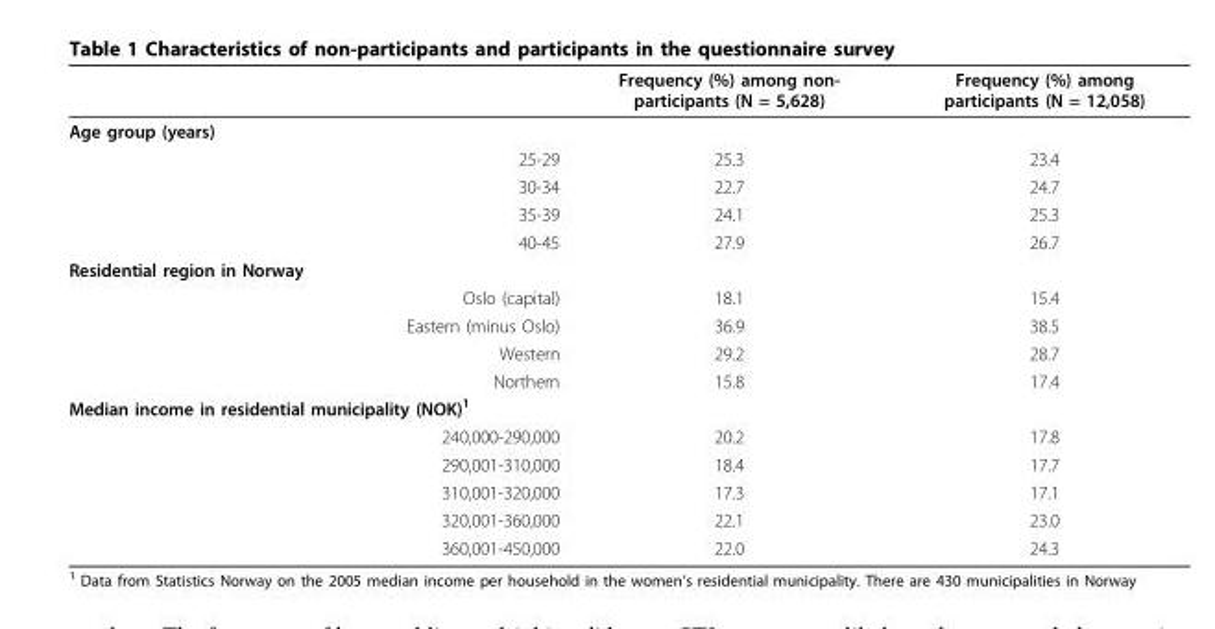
<table><thead><tr><td></td><td>Frequency (%) among non- participants (N = 5,628)</td><td>Frequency (%) among participants (N = 12,058)</td></tr></thead><tbody><tr><td colspan="3">Age group (years)</td></tr><tr><td>25-29</td><td>25.3</td><td>23.4</td></tr><tr><td>30-34</td><td>22.7</td><td>24.7</td></tr><tr><td>35-39</td><td>24.1</td><td>25.3</td></tr><tr><td>40-45</td><td>27.9</td><td>26.7</td></tr><tr><td colspan="3">Residential region in Norway</td></tr><tr><td>Oslo (capital)</td><td>18.1</td><td>15.4</td></tr><tr><td>Eastern (minus Oslo)</td><td>36.9</td><td>38.5</td></tr><tr><td>Western</td><td>29.2</td><td>28.7</td></tr><tr><td>Northern</td><td>15.8</td><td>17.4</td></tr><tr><td colspan="3">Median income in residential municipality (NOK)<sup>1</sup></td></tr><tr><td>240,000-290,000</td><td>20.2</td><td>17.8</td></tr><tr><td>290,001-310,000</td><td>18.4</td><td>17.7</td></tr><tr><td>310,001-320,000</td><td>17.3</td><td>17.1</td></tr><tr><td>320,001-360,000</td><td>22.1</td><td>23.0</td></tr><tr><td>360,001-450,000</td><td>22.0</td><td>24.3</td></tr></tbody></table>